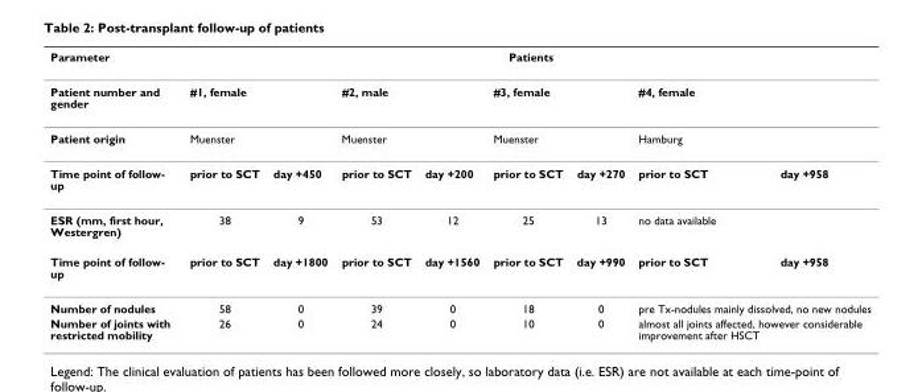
<table><thead><tr><td rowspan="4">Parameter Patient number and gender Patient origin Time point of follow- up</td><td colspan="8">Patients</td></tr><tr><td rowspan="2" colspan="2">#1, female Muenster</td><td rowspan="2" colspan="2">#2, male Muenster</td><td rowspan="2" colspan="2">#3, female Muenster</td><td rowspan="2" colspan="2">#4, female Hamburg</td></tr><tr></tr><tr><td>prior to SCT</td><td>day +450</td><td>prior to SCT</td><td>day +200</td><td>prior to SCT</td><td>day +270</td><td>prior to SCT</td><td>day +958</td></tr></thead><tbody><tr><td>ESR (mm, first hour, Westergren)</td><td>38</td><td>9</td><td>53</td><td>12</td><td>25</td><td>13</td><td colspan="2">no data available</td></tr><tr><td>Time point of follow- up</td><td>prior to SCT</td><td>day +1800</td><td>prior to SCT</td><td>day +1560</td><td>prior to SCT</td><td>day +990</td><td>prior to SCT</td><td>day +958</td></tr><tr><td>Number of nodules</td><td>58</td><td>0</td><td>39</td><td>0</td><td>18</td><td>0</td><td colspan="2">pre Tx-nodules mainly dissolved, no new nodules</td></tr><tr><td>Number of joints with restricted mobility</td><td>26</td><td>0</td><td>24</td><td>0</td><td>10</td><td>0</td><td colspan="2">almost all joints affected, however considerable improvement after HSCT</td></tr></tbody></table>